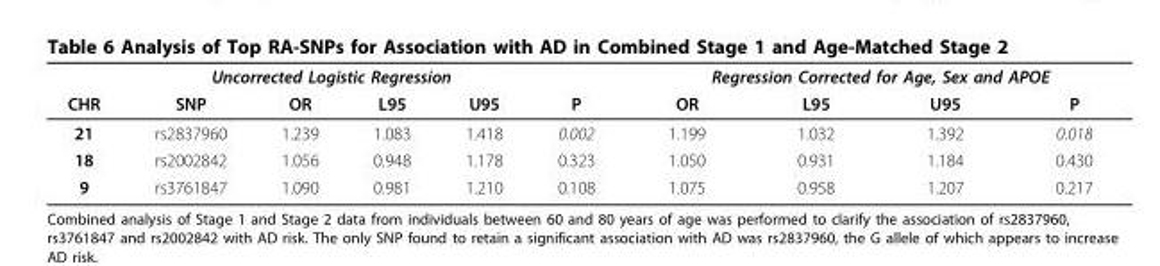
<table><thead><tr><td colspan="6">Uncorrected Logistic Regression</td><td colspan="4">Regression Corrected for Age, Sex and APOE</td></tr><tr><td>CHR</td><td>SNP</td><td>OR</td><td>L95</td><td>U95</td><td>P</td><td>OR</td><td>L95</td><td>U95</td><td>P</td></tr></thead><tbody><tr><td>21</td><td>rs2837960</td><td>1.239</td><td>1.083</td><td>1.418</td><td>0.002</td><td>1.199</td><td>1.032</td><td>1.392</td><td>0.018</td></tr><tr><td>18</td><td>rs2002842</td><td>1.056</td><td>0.948</td><td>1.178</td><td>0.323</td><td>1.050</td><td>0.931</td><td>1.184</td><td>0.430</td></tr><tr><td>9</td><td>rs3761847</td><td>1.090</td><td>0.981</td><td>1.210</td><td>0.108</td><td>1.075</td><td>0.958</td><td>1.207</td><td>0.217</td></tr></tbody></table>